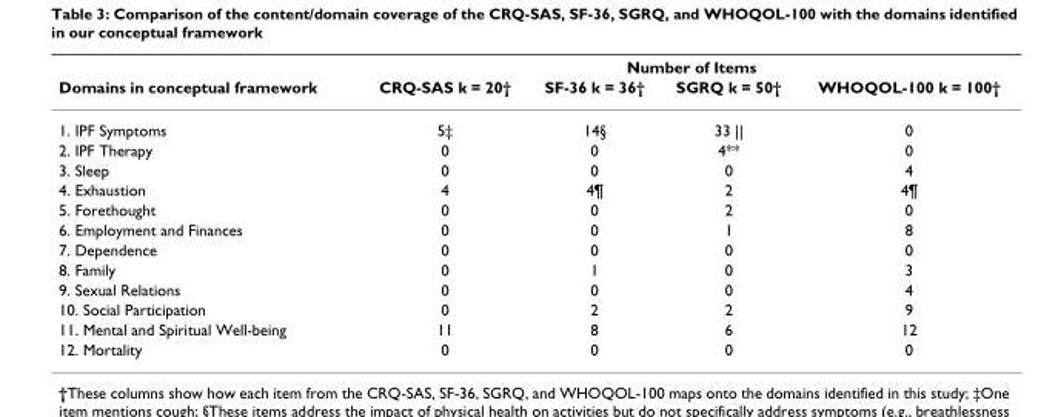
<table><thead><tr><td rowspan="2">Domains in conceptual framework</td><td colspan="4">Number of Items</td></tr><tr><td>CRQ-SAS k = 20†</td><td>SF-36 k = 36†</td><td>SGRQ k = 50†</td><td>WHOQOL-100 k = 100†</td></tr></thead><tbody><tr><td>1. IPF Symptoms</td><td>5‡</td><td>14§</td><td>33 ||</td><td>0</td></tr><tr><td>2. IPF Therapy</td><td>0</td><td>0</td><td>4**</td><td>0</td></tr><tr><td>3. Sleep</td><td>0</td><td>0</td><td>0</td><td>4</td></tr><tr><td>4. Exhaustion</td><td>4</td><td>4¶</td><td>2</td><td>4¶</td></tr><tr><td>5. Forethought</td><td>0</td><td>0</td><td>2</td><td>0</td></tr><tr><td>6. Employment and Finances</td><td>0</td><td>0</td><td>1</td><td>8</td></tr><tr><td>7. Dependence</td><td>0</td><td>0</td><td>0</td><td>0</td></tr><tr><td>8. Family</td><td>0</td><td>1</td><td>0</td><td>3</td></tr><tr><td>9. Sexual Relations</td><td>0</td><td>0</td><td>0</td><td>4</td></tr><tr><td>10. Social Participation</td><td>0</td><td>2</td><td>2</td><td>9</td></tr><tr><td>11. Mental and Spiritual Well-being</td><td>11</td><td>8</td><td>6</td><td>12</td></tr><tr><td>12. Mortality</td><td>0</td><td>0</td><td>0</td><td>0</td></tr></tbody></table>